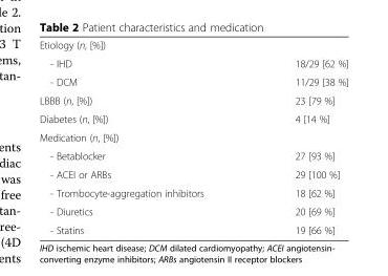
<table><tbody><tr><td colspan="2">Etiology (n, [%])</td></tr><tr><td>- IHD</td><td>18/29 [62 %]</td></tr><tr><td>- DCM</td><td>11/29 [38 %]</td></tr><tr><td>LBBB (n, [%])</td><td>23 [79 %]</td></tr><tr><td>Diabetes (n, [%])</td><td>4 [14 %]</td></tr><tr><td colspan="2">Medication (n, [%])</td></tr><tr><td>- Betablocker</td><td>27 [93 %]</td></tr><tr><td>- ACEI or ARBs</td><td>29 [100 %]</td></tr><tr><td>- Trombocyte-aggregation inhibitors</td><td>18 [62 %]</td></tr><tr><td>- Diuretics</td><td>20 [69 %]</td></tr><tr><td>- Statins</td><td>19 [66 %]</td></tr></tbody></table>